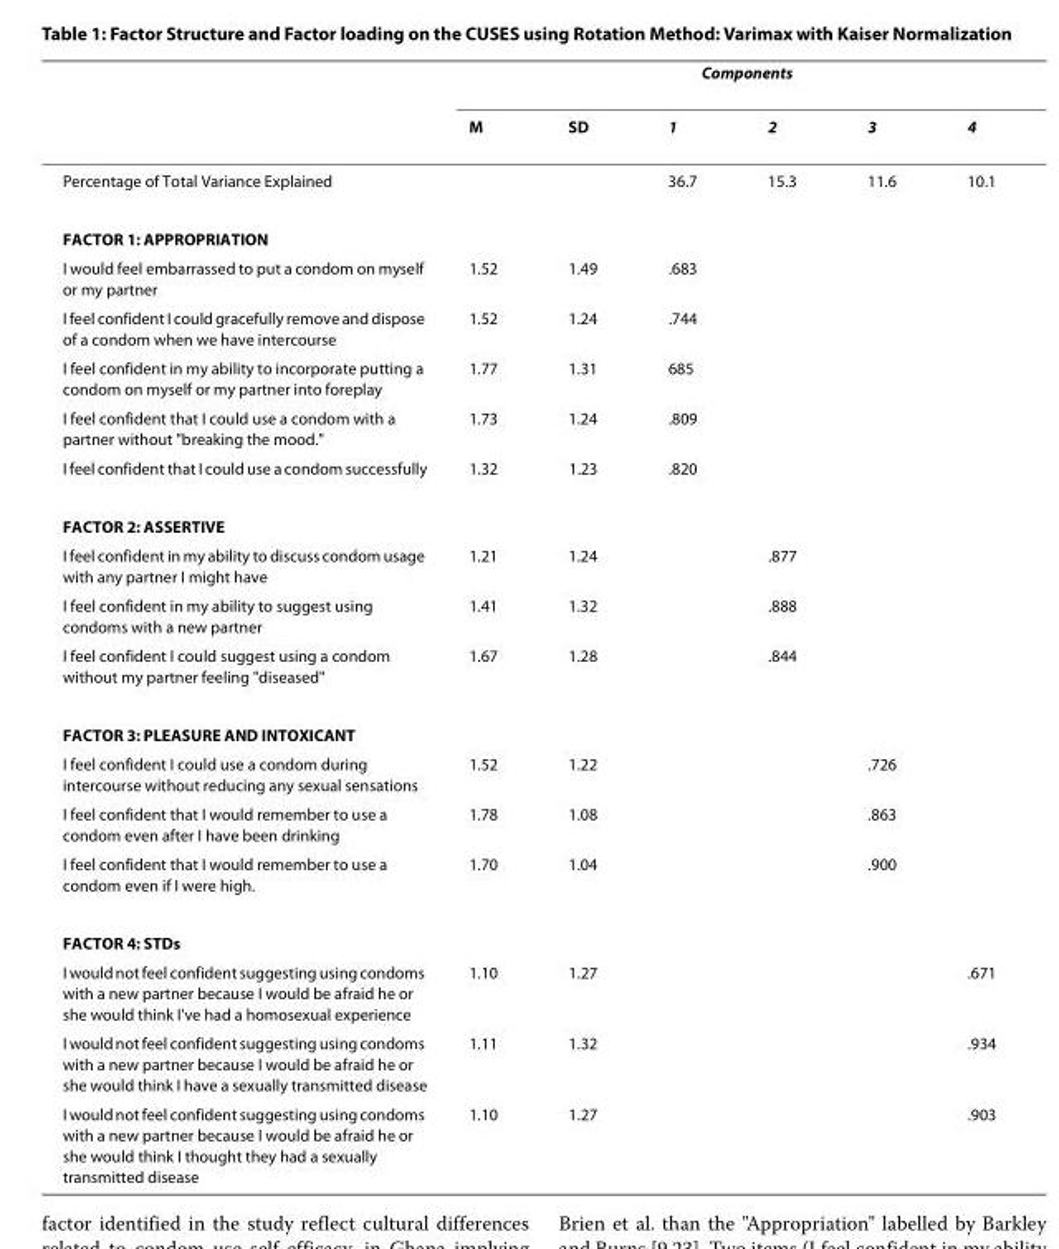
<table><thead><tr><td rowspan="2"></td><td colspan="6">Components</td></tr><tr><td>M</td><td>SD</td><td>1</td><td>2</td><td>3</td><td>4</td></tr></thead><tbody><tr><td>Percentage of Total Variance Explained</td><td></td><td></td><td>36.7</td><td>15.3</td><td>11.6</td><td>10.1</td></tr><tr><td colspan="7">FACTOR 1: APPROPRIATION</td></tr><tr><td>I would feel embarrassed to put a condom on myself or my partner</td><td>1.52</td><td>1.49</td><td>.683</td><td></td><td></td><td></td></tr><tr><td>I feel confident I could gracefully remove and dispose of a condom when we have intercourse</td><td>1.52</td><td>1.24</td><td>.744</td><td></td><td></td><td></td></tr><tr><td>I feel confident in my ability to incorporate putting a condom on myself or my partner into foreplay</td><td>1.77</td><td>1.31</td><td>685</td><td></td><td></td><td></td></tr><tr><td>I feel confident that I could use a condom with a partner without &quot;breaking the mood.&quot;</td><td>1.73</td><td>1.24</td><td>.809</td><td></td><td></td><td></td></tr><tr><td>I feel confident that I could use a condom successfully</td><td>1.32</td><td>1.23</td><td>.820</td><td></td><td></td><td></td></tr><tr><td colspan="7">FACTOR 2: ASSERTIVE</td></tr><tr><td>I feel confident in my ability to discuss condom usage with any partner I might have</td><td>1.21</td><td>1.24</td><td></td><td>.877</td><td></td><td></td></tr><tr><td>I feel confident in my ability to suggest using condoms with a new partner</td><td>1.41</td><td>1.32</td><td></td><td>.888</td><td></td><td></td></tr><tr><td>I feel confident I could suggest using a condom without my partner feeling &quot;diseased&quot;</td><td>1.67</td><td>1.28</td><td></td><td>.844</td><td></td><td></td></tr><tr><td colspan="7">FACTOR 3: PLEASURE AND INTOXICANT</td></tr><tr><td>I feel confident I could use a condom during intercourse without reducing any sexual sensations</td><td>1.52</td><td>1.22</td><td></td><td></td><td>.726</td><td></td></tr><tr><td>I feel confident that I would remember to use a condom even after I have been drinking</td><td>1.78</td><td>1.08</td><td></td><td></td><td>.863</td><td></td></tr><tr><td>I feel confident that I would remember to use a condom even if I were high.</td><td>1.70</td><td>1.04</td><td></td><td></td><td>.900</td><td></td></tr><tr><td colspan="7">FACTOR 4: STDs</td></tr><tr><td>I would not feel confident suggesting using condoms with a new partner because I would be afraid he or she would think I&#x27;ve had a homosexual experience</td><td>1.10</td><td>1.27</td><td></td><td></td><td></td><td>.671</td></tr><tr><td>I would not feel confident suggesting using condoms with a new partner because I would be afraid he or she would think I have a sexually transmitted disease</td><td>1.11</td><td>1.32</td><td></td><td></td><td></td><td>.934</td></tr><tr><td>I would not feel confident suggesting using condoms with a new partner because I would be afraid he or she would think I thought they had a sexually transmitted disease</td><td>1.10</td><td>1.27</td><td></td><td></td><td></td><td>.903</td></tr></tbody></table>